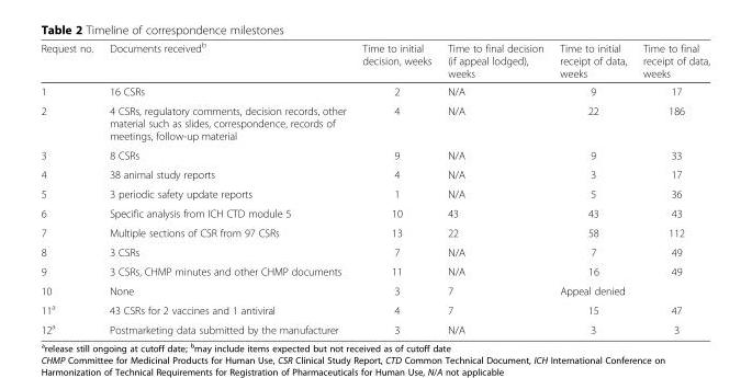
<table><thead><tr><td>Request no.</td><td>Documents received<sup>b</sup></td><td>Time to initial decision, weeks</td><td>Time to final decision (if appeal lodged), weeks</td><td>Time to initial receipt of data, weeks</td><td>Time to final receipt of data, weeks</td></tr></thead><tbody><tr><td>1</td><td>16 CSRs</td><td>2</td><td>N/A</td><td>9</td><td>17</td></tr><tr><td>2</td><td>4 CSRs, regulatory comments, decision records, other material such as slides, correspondence, records of meetings, follow-up material</td><td>4</td><td>N/A</td><td>22</td><td>186</td></tr><tr><td>3</td><td>8 CSRs</td><td>9</td><td>N/A</td><td>9</td><td>33</td></tr><tr><td>4</td><td>38 animal study reports</td><td>4</td><td>N/A</td><td>3</td><td>17</td></tr><tr><td>5</td><td>3 periodic safety update reports</td><td>1</td><td>N/A</td><td>5</td><td>36</td></tr><tr><td>6</td><td>Specific analysis from ICH CTD module 5</td><td>10</td><td>43</td><td>43</td><td>43</td></tr><tr><td>7</td><td>Multiple sections of CSR from 97 CSRs</td><td>13</td><td>22</td><td>58</td><td>112</td></tr><tr><td>8</td><td>3 CSRs</td><td>7</td><td>N/A</td><td>7</td><td>49</td></tr><tr><td>9</td><td>3 CSRs, CHMP minutes and other CHMP documents</td><td>11</td><td>N/A</td><td>16</td><td>49</td></tr><tr><td>10</td><td>None</td><td>3</td><td>7</td><td colspan="2">Appeal denied</td></tr><tr><td>11<sup>a</sup></td><td>43 CSRs for 2 vaccines and 1 antiviral</td><td>4</td><td>7</td><td>15</td><td>47</td></tr><tr><td>12<sup>a</sup></td><td>Postmarketing data submitted by the manufacturer</td><td>3</td><td>N/A</td><td>3</td><td>3</td></tr></tbody></table>